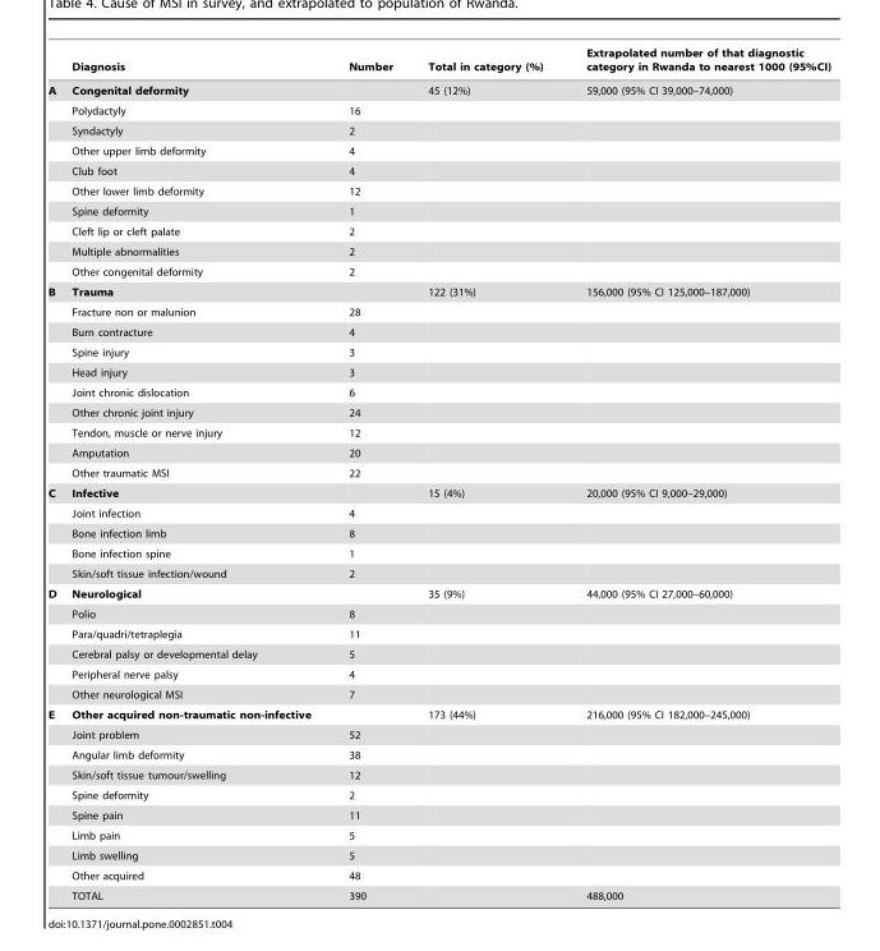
<table><thead><tr><td></td><td>Diagnosis</td><td>Number</td><td>Total in category (%)</td><td>Extrapolated number of that diagnostic category in Rwanda to nearest 1000 (95%CI)</td></tr></thead><tbody><tr><td rowspan="10">A</td><td>Congenital deformity</td><td></td><td>45 (12%)</td><td>59,000 (95% CI 39,000–74,000)</td></tr><tr><td>Polydactyly</td><td>16</td><td></td><td></td></tr><tr><td>Syndactyly</td><td>2</td><td></td><td></td></tr><tr><td>Other upper limb deformity</td><td>4</td><td></td><td></td></tr><tr><td>Club foot</td><td>4</td><td></td><td></td></tr><tr><td>Other lower limb deformity</td><td>12</td><td></td><td></td></tr><tr><td>Spine deformity</td><td>1</td><td></td><td></td></tr><tr><td>Cleft lip or cleft palate</td><td>2</td><td></td><td></td></tr><tr><td>Multiple abnormalities</td><td>2</td><td></td><td></td></tr><tr><td>Other congenital deformity</td><td>2</td><td></td><td></td></tr><tr><td rowspan="10">B</td><td>Trauma</td><td></td><td>122 (31%)</td><td>156,000 (95% CI 125,000–187,000)</td></tr><tr><td>Fracture non or malunion</td><td>28</td><td></td><td></td></tr><tr><td>Burn contracture</td><td>4</td><td></td><td></td></tr><tr><td>Spine injury</td><td>3</td><td></td><td></td></tr><tr><td>Head injury</td><td>3</td><td></td><td></td></tr><tr><td>Joint chronic dislocation</td><td>6</td><td></td><td></td></tr><tr><td>Other chronic joint injury</td><td>24</td><td></td><td></td></tr><tr><td>Tendon, muscle or nerve injury</td><td>12</td><td></td><td></td></tr><tr><td>Amputation</td><td>20</td><td></td><td></td></tr><tr><td>Other traumatic MSI</td><td>22</td><td></td><td></td></tr><tr><td rowspan="5">C</td><td>Infective</td><td></td><td>15 (4%)</td><td>20,000 (95% CI 9,000–29,000)</td></tr><tr><td>Joint infection</td><td>4</td><td></td><td></td></tr><tr><td>Bone infection limb</td><td>8</td><td></td><td></td></tr><tr><td>Bone infection spine</td><td>1</td><td></td><td></td></tr><tr><td>Skin/soft tissue infection/wound</td><td>2</td><td></td><td></td></tr><tr><td rowspan="6">D</td><td>Neurological</td><td></td><td>35 (9%)</td><td>44,000 (95% CI 27,000–60,000)</td></tr><tr><td>Polio</td><td>8</td><td></td><td></td></tr><tr><td>Para/quadri/tetraplegia</td><td>11</td><td></td><td></td></tr><tr><td>Cerebral palsy or developmental delay</td><td>5</td><td></td><td></td></tr><tr><td>Peripheral nerve palsy</td><td>4</td><td></td><td></td></tr><tr><td>Other neurological MSI</td><td>7</td><td></td><td></td></tr><tr><td rowspan="10">E</td><td>Other acquired non-traumatic non-infective</td><td></td><td>173 (44%)</td><td>216,000 (95% CI 182,000–245,000)</td></tr><tr><td>Joint problem</td><td>52</td><td></td><td></td></tr><tr><td>Angular limb deformity</td><td>38</td><td></td><td></td></tr><tr><td>Skin/soft tissue tumour/swelling</td><td>12</td><td></td><td></td></tr><tr><td>Spine deformity</td><td>2</td><td></td><td></td></tr><tr><td>Spine pain</td><td>11</td><td></td><td></td></tr><tr><td>Limb pain</td><td>5</td><td></td><td></td></tr><tr><td>Limb swelling</td><td>5</td><td></td><td></td></tr><tr><td>Other acquired</td><td>48</td><td></td><td></td></tr><tr><td>TOTAL</td><td>390</td><td></td><td>488,000</td></tr></tbody></table>